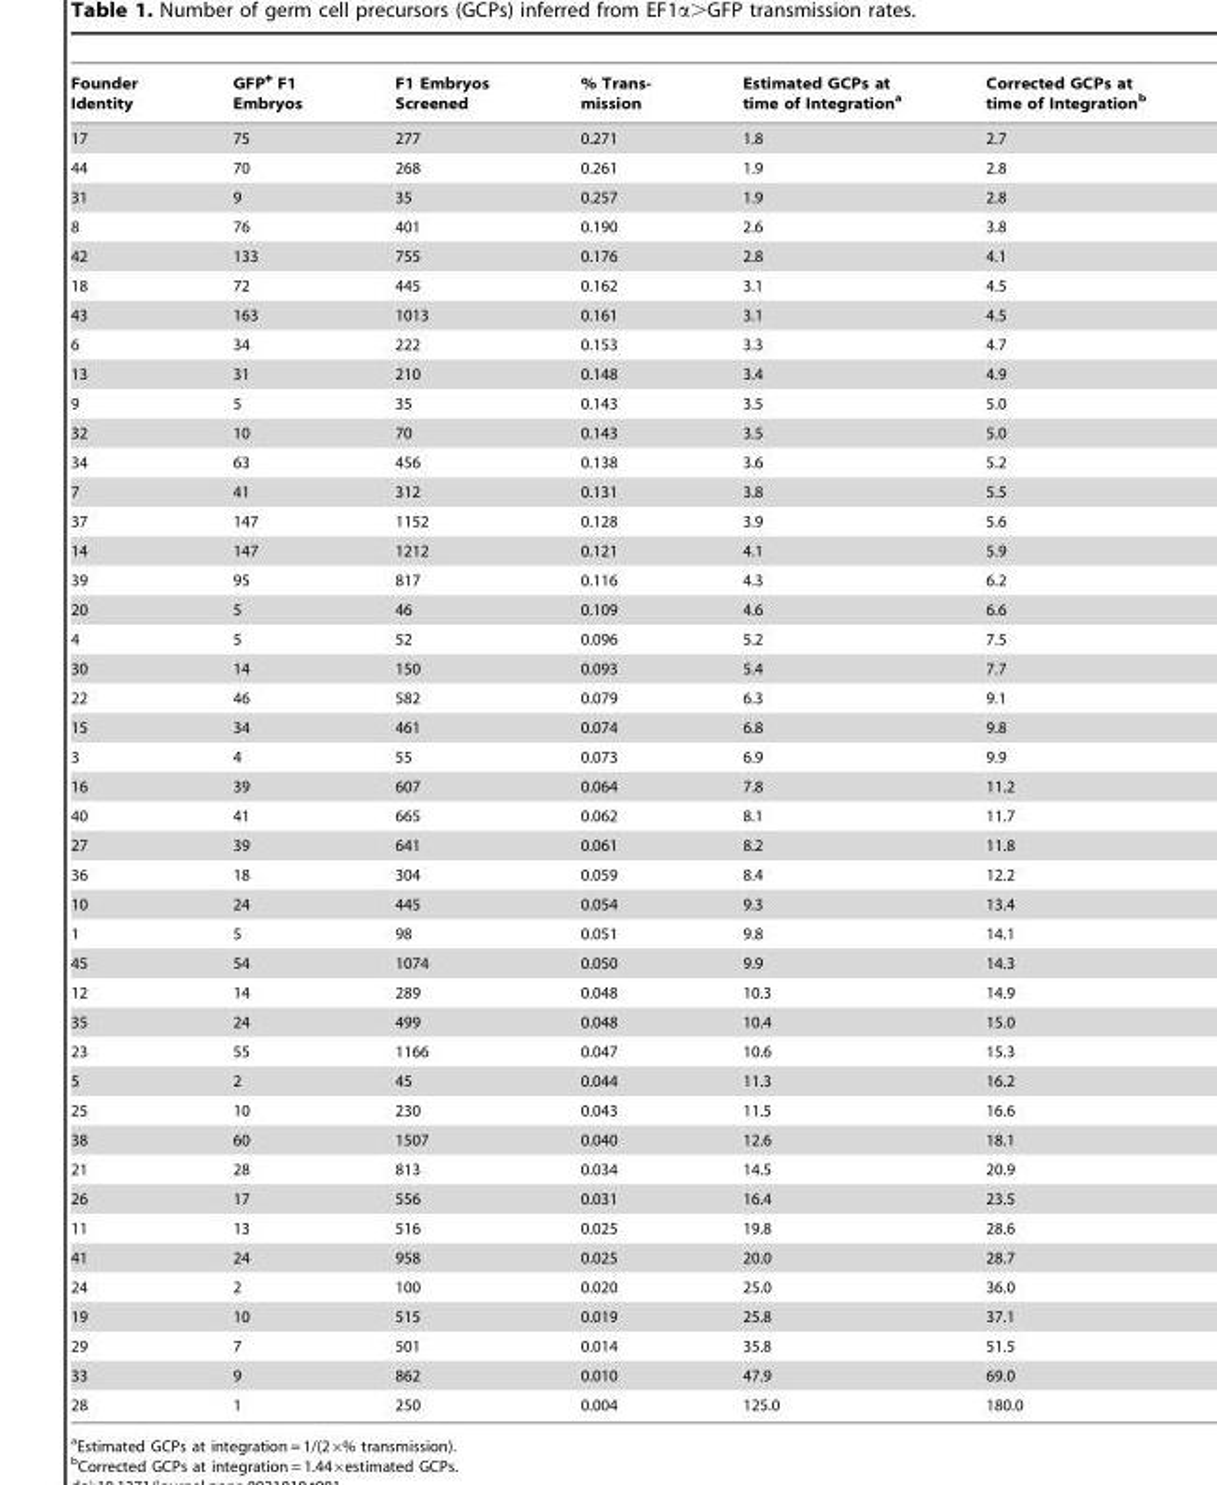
<table><thead><tr><td>Founder Identity</td><td>GFP<sup>+</sup> F1 Embryos</td><td>F1 Embryos Screened</td><td>% Trans- mission</td><td>Estimated GCPs at time of Integration<sup>a</sup></td><td>Corrected GCPs at time of Integration<sup>b</sup></td></tr></thead><tbody><tr><td>17</td><td>75</td><td>277</td><td>0.271</td><td>1.8</td><td>2.7</td></tr><tr><td>44</td><td>70</td><td>268</td><td>0.261</td><td>1.9</td><td>2.8</td></tr><tr><td>31</td><td>9</td><td>35</td><td>0.257</td><td>1.9</td><td>2.8</td></tr><tr><td>8</td><td>76</td><td>401</td><td>0.190</td><td>2.6</td><td>3.8</td></tr><tr><td>42</td><td>133</td><td>755</td><td>0.176</td><td>2.8</td><td>4.1</td></tr><tr><td>18</td><td>72</td><td>445</td><td>0.162</td><td>3.1</td><td>4.5</td></tr><tr><td>43</td><td>163</td><td>1013</td><td>0.161</td><td>3.1</td><td>4.5</td></tr><tr><td>6</td><td>34</td><td>222</td><td>0.153</td><td>3.3</td><td>4.7</td></tr><tr><td>13</td><td>31</td><td>210</td><td>0.148</td><td>3.4</td><td>4.9</td></tr><tr><td>9</td><td>5</td><td>35</td><td>0.143</td><td>3.5</td><td>5.0</td></tr><tr><td>32</td><td>10</td><td>70</td><td>0.143</td><td>3.5</td><td>5.0</td></tr><tr><td>34</td><td>63</td><td>456</td><td>0.138</td><td>3.6</td><td>5.2</td></tr><tr><td>7</td><td>41</td><td>312</td><td>0.131</td><td>3.8</td><td>5.5</td></tr><tr><td>37</td><td>147</td><td>1152</td><td>0.128</td><td>3.9</td><td>5.6</td></tr><tr><td>14</td><td>147</td><td>1212</td><td>0.121</td><td>4.1</td><td>5.9</td></tr><tr><td>39</td><td>95</td><td>817</td><td>0.116</td><td>4.3</td><td>6.2</td></tr><tr><td>20</td><td>5</td><td>46</td><td>0.109</td><td>4.6</td><td>6.6</td></tr><tr><td>4</td><td>5</td><td>52</td><td>0.096</td><td>5.2</td><td>7.5</td></tr><tr><td>30</td><td>14</td><td>150</td><td>0.093</td><td>5.4</td><td>7.7</td></tr><tr><td>22</td><td>46</td><td>582</td><td>0.079</td><td>6.3</td><td>9.1</td></tr><tr><td>15</td><td>34</td><td>461</td><td>0.074</td><td>6.8</td><td>9.8</td></tr><tr><td>3</td><td>4</td><td>55</td><td>0.073</td><td>6.9</td><td>9.9</td></tr><tr><td>16</td><td>39</td><td>607</td><td>0.064</td><td>7.8</td><td>11.2</td></tr><tr><td>40</td><td>41</td><td>665</td><td>0.062</td><td>8.1</td><td>11.7</td></tr><tr><td>27</td><td>39</td><td>641</td><td>0.061</td><td>8.2</td><td>11.8</td></tr><tr><td>36</td><td>18</td><td>304</td><td>0.059</td><td>8.4</td><td>12.2</td></tr><tr><td>10</td><td>24</td><td>445</td><td>0.054</td><td>9.3</td><td>13.4</td></tr><tr><td>1</td><td>5</td><td>98</td><td>0.051</td><td>9.8</td><td>14.1</td></tr><tr><td>45</td><td>54</td><td>1074</td><td>0.050</td><td>9.9</td><td>14.3</td></tr><tr><td>12</td><td>14</td><td>289</td><td>0.048</td><td>10.3</td><td>14.9</td></tr><tr><td>35</td><td>24</td><td>499</td><td>0.048</td><td>10.4</td><td>15.0</td></tr><tr><td>23</td><td>55</td><td>1166</td><td>0.047</td><td>10.6</td><td>15.3</td></tr><tr><td>5</td><td>2</td><td>45</td><td>0.044</td><td>11.3</td><td>16.2</td></tr><tr><td>25</td><td>10</td><td>230</td><td>0.043</td><td>11.5</td><td>16.6</td></tr><tr><td>38</td><td>60</td><td>1507</td><td>0.040</td><td>12.6</td><td>18.1</td></tr><tr><td>21</td><td>28</td><td>813</td><td>0.034</td><td>14.5</td><td>20.9</td></tr><tr><td>26</td><td>17</td><td>556</td><td>0.031</td><td>16.4</td><td>23.5</td></tr><tr><td>11</td><td>13</td><td>516</td><td>0.025</td><td>19.8</td><td>28.6</td></tr><tr><td>41</td><td>24</td><td>958</td><td>0.025</td><td>20.0</td><td>28.7</td></tr><tr><td>24</td><td>2</td><td>100</td><td>0.020</td><td>25.0</td><td>36.0</td></tr><tr><td>19</td><td>10</td><td>515</td><td>0.019</td><td>25.8</td><td>37.1</td></tr><tr><td>29</td><td>7</td><td>501</td><td>0.014</td><td>35.8</td><td>51.5</td></tr><tr><td>33</td><td>9</td><td>862</td><td>0.010</td><td>47.9</td><td>69.0</td></tr><tr><td>28</td><td>1</td><td>250</td><td>0.004</td><td>125.0</td><td>180.0</td></tr></tbody></table>